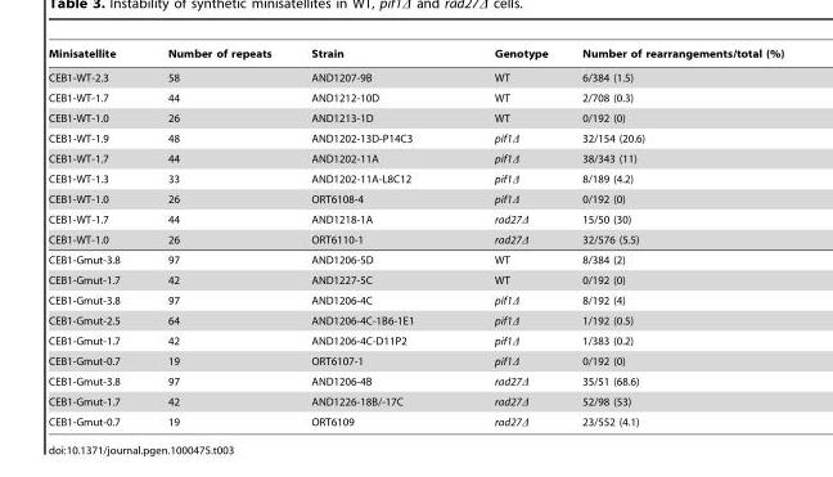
<table><thead><tr><td>Minisatellite</td><td>Number of repeats</td><td>Strain</td><td>Genotype</td><td>Number of rearrangements/total (%)</td></tr></thead><tbody><tr><td>CEB1-WT-2.3</td><td>58</td><td>AND1207-9B</td><td>WT</td><td>6/384 (1.5)</td></tr><tr><td>CEB1-WT-1.7</td><td>44</td><td>AND1212-10D</td><td>WT</td><td>2/708 (0.3)</td></tr><tr><td>CEB1-WT-1.0</td><td>26</td><td>AND1213-1D</td><td>WT</td><td>0/192 (0)</td></tr><tr><td>CEB1-WT-1.9</td><td>48</td><td>AND1202-13D-P14C3</td><td>pif1Δ</td><td>32/154 (20.6)</td></tr><tr><td>CEB1-WT-1.7</td><td>44</td><td>AND1202-11A</td><td>pif1Δ</td><td>38/343 (11)</td></tr><tr><td>CEB1-WT-1.3</td><td>33</td><td>AND1202-11A-L8C12</td><td>pif1Δ</td><td>8/189 (4.2)</td></tr><tr><td>CEB1-WT-1.0</td><td>26</td><td>ORT6108-4</td><td>pif1Δ</td><td>0/192 (0)</td></tr><tr><td>CEB1-WT-1.7</td><td>44</td><td>AND1218-1A</td><td>rad27Δ</td><td>15/50 (30)</td></tr><tr><td>CEB1-WT-1.0</td><td>26</td><td>ORT6110-1</td><td>rad27Δ</td><td>32/576 (5.5)</td></tr><tr><td>CEB1-Gmut-3.8</td><td>97</td><td>AND1206-5D</td><td>WT</td><td>8/384 (2)</td></tr><tr><td>CEB1-Gmut-1.7</td><td>42</td><td>AND1227-5C</td><td>WT</td><td>0/192 (0)</td></tr><tr><td>CEB1-Gmut-3.8</td><td>97</td><td>AND1206-4C</td><td>pif1Δ</td><td>8/192 (4)</td></tr><tr><td>CEB1-Gmut-2.5</td><td>64</td><td>AND1206-4C-1B6-1E1</td><td>pif1Δ</td><td>1/192 (0.5)</td></tr><tr><td>CEB1-Gmut-1.7</td><td>42</td><td>AND1206-4C-D11P2</td><td>pif1Δ</td><td>1/383 (0.2)</td></tr><tr><td>CEB1-Gmut-0.7</td><td>19</td><td>ORT6107-1</td><td>pif1Δ</td><td>0/192 (0)</td></tr><tr><td>CEB1-Gmut-3.8</td><td>97</td><td>AND1206-4B</td><td>rad27Δ</td><td>35/51 (68.6)</td></tr><tr><td>CEB1-Gmut-1.7</td><td>42</td><td>AND1226-18B/-17C</td><td>rad27Δ</td><td>52/98 (53)</td></tr><tr><td>CEB1-Gmut-0.7</td><td>19</td><td>ORT6109</td><td>rad27Δ</td><td>23/552 (4.1)</td></tr></tbody></table>